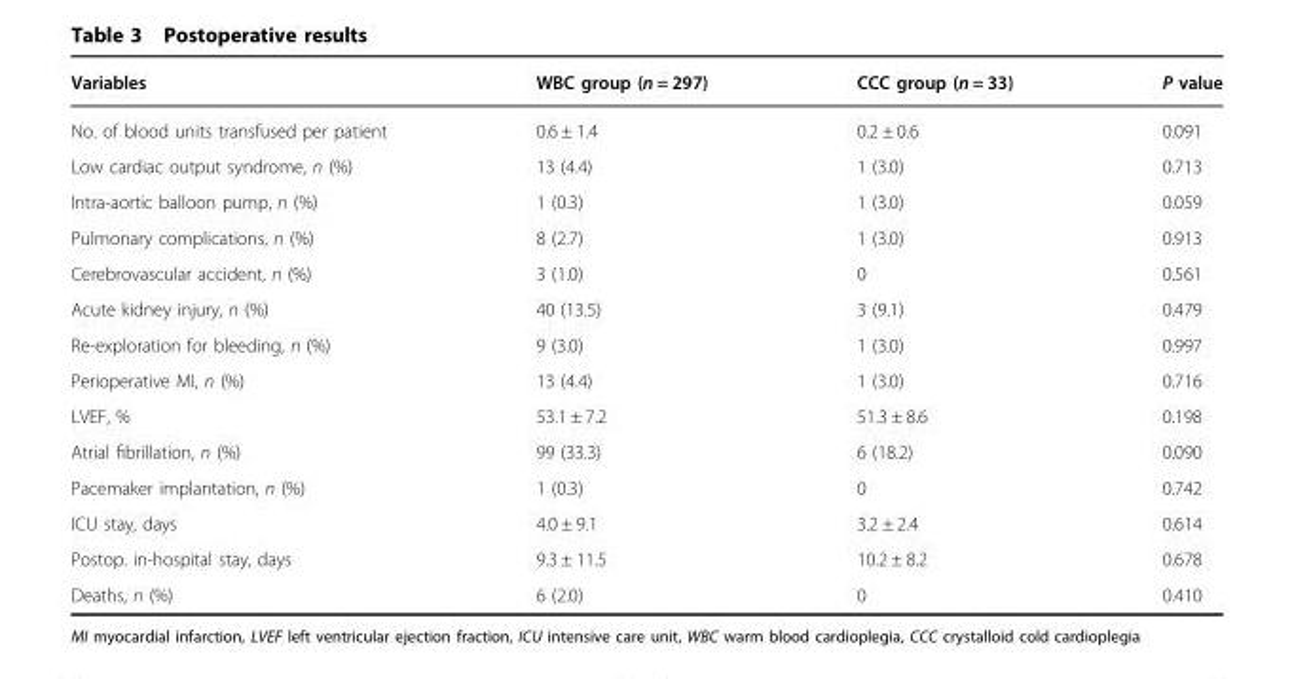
<table><thead><tr><td>Variables</td><td>WBC group (n = 297)</td><td>CCC group (n = 33)</td><td>P value</td></tr></thead><tbody><tr><td>No. of blood units transfused per patient</td><td>0.6 ± 1.4</td><td>0.2 ± 0.6</td><td>0.091</td></tr><tr><td>Low cardiac output syndrome, n (%)</td><td>13 (4.4)</td><td>1 (3.0)</td><td>0.713</td></tr><tr><td>Intra-aortic balloon pump, n (%)</td><td>1 (0.3)</td><td>1 (3.0)</td><td>0.059</td></tr><tr><td>Pulmonary complications, n (%)</td><td>8 (2.7)</td><td>1 (3.0)</td><td>0.913</td></tr><tr><td>Cerebrovascular accident, n (%)</td><td>3 (1.0)</td><td>0</td><td>0.561</td></tr><tr><td>Acute kidney injury, n (%)</td><td>40 (13.5)</td><td>3 (9.1)</td><td>0.479</td></tr><tr><td>Re-exploration for bleeding, n (%)</td><td>9 (3.0)</td><td>1 (3.0)</td><td>0.997</td></tr><tr><td>Perioperative MI, n (%)</td><td>13 (4.4)</td><td>1 (3.0)</td><td>0.716</td></tr><tr><td>LVEF, %</td><td>53.1 ± 7.2</td><td>51.3 ± 8.6</td><td>0.198</td></tr><tr><td>Atrial fibrillation, n (%)</td><td>99 (33.3)</td><td>6 (18.2)</td><td>0.090</td></tr><tr><td>Pacemaker implantation, n (%)</td><td>1 (0.3)</td><td>0</td><td>0.742</td></tr><tr><td>ICU stay, days</td><td>4.0 ± 9.1</td><td>3.2 ± 2.4</td><td>0.614</td></tr><tr><td>Postop. in-hospital stay, days</td><td>9.3 ± 11.5</td><td>10.2 ± 8.2</td><td>0.678</td></tr><tr><td>Deaths, n (%)</td><td>6 (2.0)</td><td>0</td><td>0.410</td></tr></tbody></table>